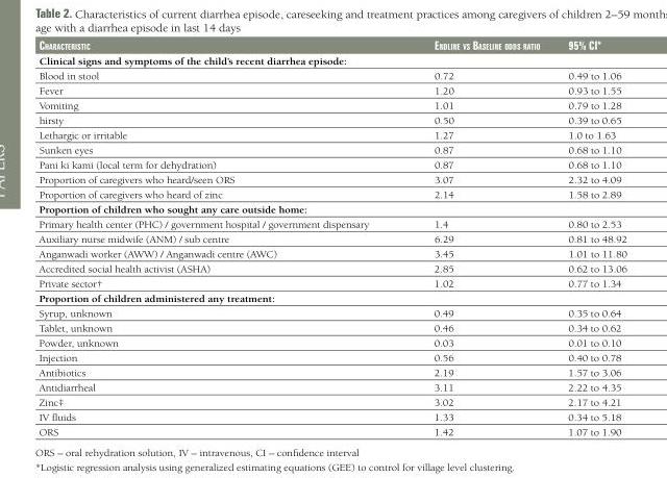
<table><thead><tr><td>CharaCteristiC</td><td>endline vs Baseline odds ratio</td><td>95% Ci*</td></tr></thead><tbody><tr><td colspan="3">Clinical signs and symptoms of the child’s recent diarrhea episode:</td></tr><tr><td>Blood in stool</td><td>0.72</td><td>0.49 to 1.06</td></tr><tr><td>Fever</td><td>1.20</td><td>0.93 to 1.55</td></tr><tr><td>Vomiting</td><td>1.01</td><td>0.79 to 1.28</td></tr><tr><td>hirsty</td><td>0.50</td><td>0.39 to 0.65</td></tr><tr><td>Lethargic or irritable</td><td>1.27</td><td>1.0 to 1.63</td></tr><tr><td>Sunken eyes</td><td>0.87</td><td>0.68 to 1.10</td></tr><tr><td>Pani ki kami (local term for dehydration)</td><td>0.87</td><td>0.68 to 1.10</td></tr><tr><td>Proportion of caregivers who heard/seen ORS</td><td>3.07</td><td>2.32 to 4.09</td></tr><tr><td>Proportion of caregivers who heard of zinc</td><td>2.14</td><td>1.58 to 2.89</td></tr><tr><td colspan="3">Proportion of children who sought any care outside home:</td></tr><tr><td>Primary health center (PHC) / government hospital / government dispensary</td><td>1.4</td><td>0.80 to 2.53</td></tr><tr><td>Auxiliary nurse midwife (ANM) / sub centre</td><td>6.29</td><td>0.81 to 48.92</td></tr><tr><td>Anganwadi worker (AWW) / Anganwadi centre (AWC)</td><td>3.45</td><td>1.01 to 11.80</td></tr><tr><td>Accredited social health activist (ASHA)</td><td>2.85</td><td>0.62 to 13.06</td></tr><tr><td>Private sector†</td><td>1.02</td><td>0.77 to 1.34</td></tr><tr><td colspan="3">Proportion of children administered any treatment:</td></tr><tr><td>Syrup, unknown</td><td>0.49</td><td>0.35 to 0.64</td></tr><tr><td>Tablet, unknown</td><td>0.46</td><td>0.34 to 0.62</td></tr><tr><td>Powder, unknown</td><td>0.03</td><td>0.01 to 0.10</td></tr><tr><td>Injection</td><td>0.56</td><td>0.40 to 0.78</td></tr><tr><td>Antibiotics</td><td>2.19</td><td>1.57 to 3.06</td></tr><tr><td>Antidiarrheal</td><td>3.11</td><td>2.22 to 4.35</td></tr><tr><td>Zinc‡</td><td>3.02</td><td>2.17 to 4.21</td></tr><tr><td>IV fluids</td><td>1.33</td><td>0.34 to 5.18</td></tr><tr><td>ORS</td><td>1.42</td><td>1.07 to 1.90</td></tr></tbody></table>